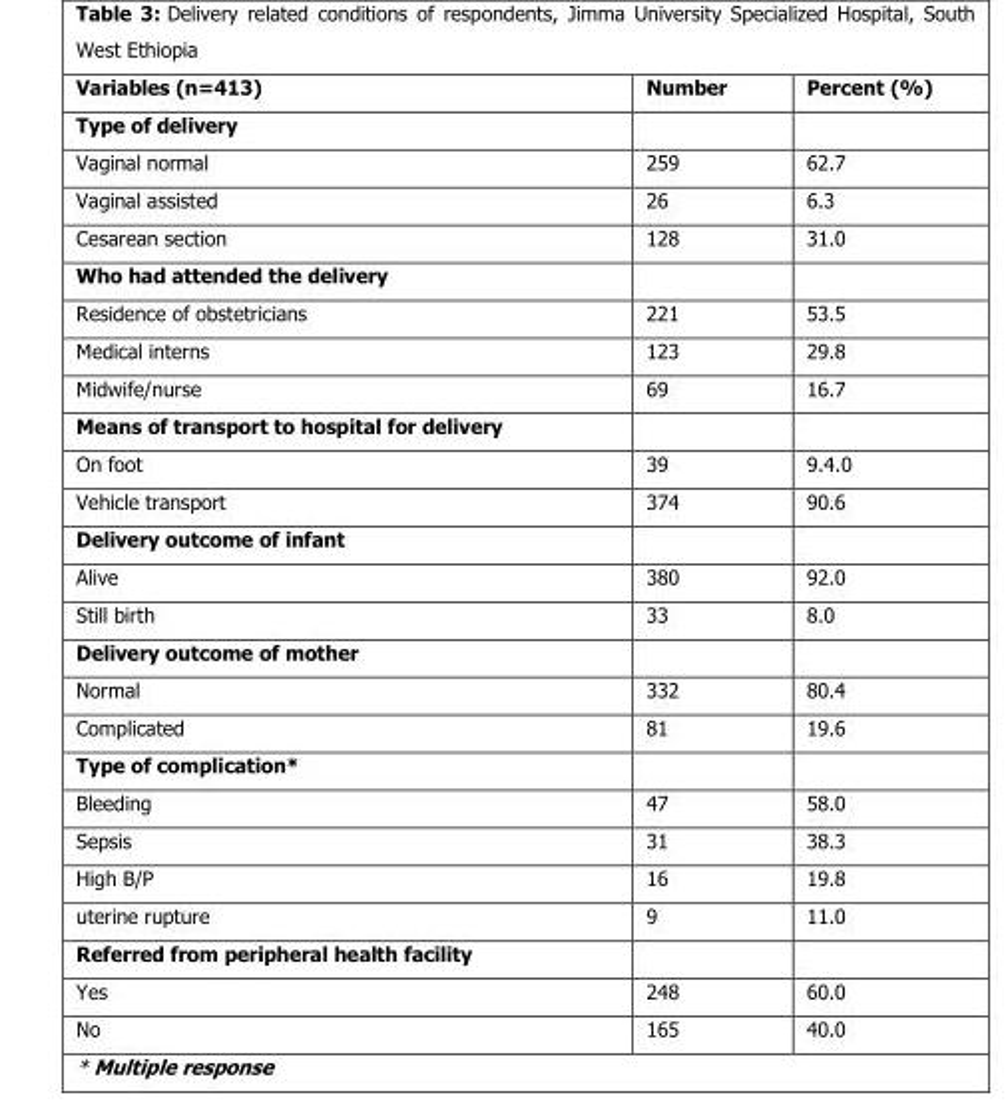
<table><thead><tr><td>Variables (n=413)</td><td>Number</td><td>Percent (%)</td></tr></thead><tbody><tr><td colspan="3">Type of delivery</td></tr><tr><td>Vaginal normal</td><td>259</td><td>62.7</td></tr><tr><td>Vaginal assisted</td><td>26</td><td>6.3</td></tr><tr><td>Cesarean section</td><td>128</td><td>31.0</td></tr><tr><td colspan="3">Who had attended the delivery</td></tr><tr><td>Residence of obstetricians</td><td>221</td><td>53.5</td></tr><tr><td>Medical interns</td><td>123</td><td>29.8</td></tr><tr><td>Midwife/nurse</td><td>69</td><td>16.7</td></tr><tr><td colspan="3">Means of transport to hospital for delivery</td></tr><tr><td>On foot</td><td>39</td><td>9.4.0</td></tr><tr><td>Vehicle transport</td><td>374</td><td>90.6</td></tr><tr><td colspan="3">Delivery outcome of infant</td></tr><tr><td>Alive</td><td>380</td><td>92.0</td></tr><tr><td>Still birth</td><td>33</td><td>8.0</td></tr><tr><td colspan="3">Delivery outcome of mother</td></tr><tr><td>Normal</td><td>332</td><td>80.4</td></tr><tr><td>Complicated</td><td>81</td><td>19.6</td></tr><tr><td colspan="3">Type of complication*</td></tr><tr><td>Bleeding</td><td>47</td><td>58.0</td></tr><tr><td>Sepsis</td><td>31</td><td>38.3</td></tr><tr><td>High B/P</td><td>16</td><td>19.8</td></tr><tr><td>uterine rupture</td><td>9</td><td>11.0</td></tr><tr><td colspan="3">Referred from peripheral health facility</td></tr><tr><td>Yes</td><td>248</td><td>60.0</td></tr><tr><td>No</td><td>165</td><td>40.0</td></tr></tbody></table>